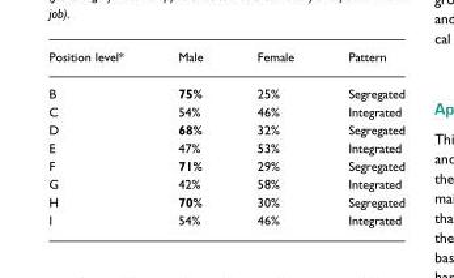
<table><thead><tr><td>Position level*</td><td>Male</td><td>Female</td><td>Pattern</td></tr></thead><tbody><tr><td>B</td><td>75%</td><td>25%</td><td>Segregated</td></tr><tr><td>C</td><td>54%</td><td>46%</td><td>Integrated</td></tr><tr><td>D</td><td>68%</td><td>32%</td><td>Segregated</td></tr><tr><td>E</td><td>47%</td><td>53%</td><td>Integrated</td></tr><tr><td>F</td><td>71%</td><td>29%</td><td>Segregated</td></tr><tr><td>G</td><td>42%</td><td>58%</td><td>Integrated</td></tr><tr><td>H</td><td>70%</td><td>30%</td><td>Segregated</td></tr><tr><td>I</td><td>54%</td><td>46%</td><td>Integrated</td></tr></tbody></table>